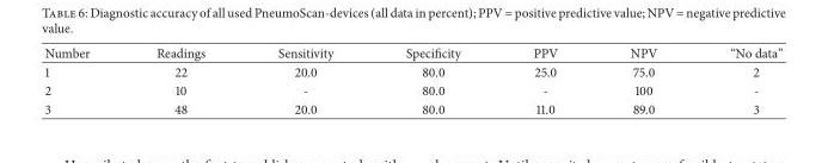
<table><thead><tr><td>Number</td><td>Readings</td><td>Sensitivity</td><td>Specificity</td><td>PPV</td><td>NPV</td><td>“No data”</td></tr></thead><tbody><tr><td>1</td><td>22</td><td>20.0</td><td>80.0</td><td>25.0</td><td>75.0</td><td>2</td></tr><tr><td>2</td><td>10</td><td>-</td><td>80.0</td><td>-</td><td>100</td><td>-</td></tr><tr><td>3</td><td>48</td><td>20.0</td><td>80.0</td><td>11.0</td><td>89.0</td><td>3</td></tr></tbody></table>